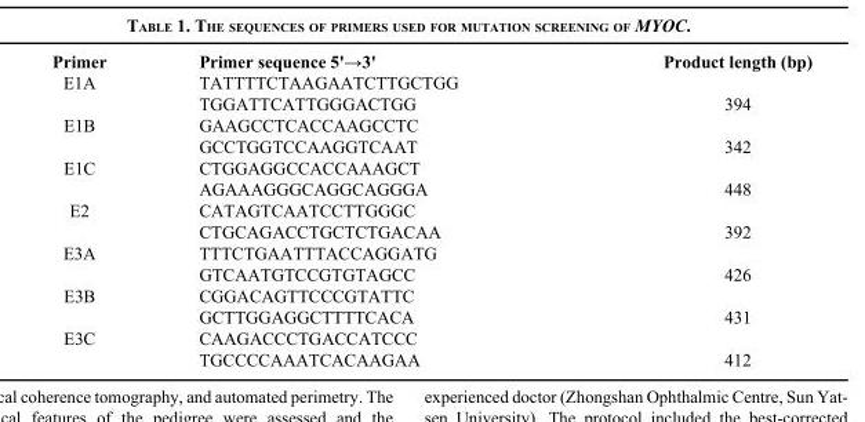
<table><thead><tr><td>Primer</td><td>Primer sequence 5&#x27;→3&#x27;</td><td>Product length (bp)</td></tr></thead><tbody><tr><td rowspan="2">E1A</td><td>TATTTTCTAAGAATCTTGCTGG</td><td></td></tr><tr><td>TGGATTCATTGGGACTGG</td><td>394</td></tr><tr><td rowspan="2">E1B</td><td>GAAGCCTCACCAAGCCTC</td><td></td></tr><tr><td>GCCTGGTCCAAGGTCAAT</td><td>342</td></tr><tr><td rowspan="2">E1C</td><td>CTGGAGGCCACCAAAGCT</td><td></td></tr><tr><td>AGAAAGGGCAGGCAGGGA</td><td>448</td></tr><tr><td rowspan="2">E2</td><td>CATAGTCAATCCTTGGGC</td><td></td></tr><tr><td>CTGCAGACCTGCTCTGACAA</td><td>392</td></tr><tr><td rowspan="2">E3A</td><td>TTTCTGAATTTACCAGGATG</td><td></td></tr><tr><td>GTCAATGTCCGTGTAGCC</td><td>426</td></tr><tr><td rowspan="2">E3B</td><td>CGGACAGTTCCCGTATTC</td><td></td></tr><tr><td>GCTTGGAGGCTTTTCACA</td><td>431</td></tr><tr><td rowspan="2">E3C</td><td>CAAGACCCTGACCATCCC</td><td></td></tr><tr><td>TGCCCCAAATCACAAGAA</td><td>412</td></tr></tbody></table>